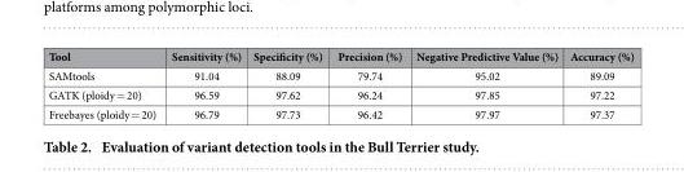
<table><thead><tr><td>Tool</td><td>Sensitivity (%)</td><td>Specificity (%)</td><td>Precision (%)</td><td>Negative Predictive Value (%)</td><td>Accuracy (%)</td></tr></thead><tbody><tr><td>SAMtools</td><td>91.04</td><td>88.09</td><td>79.74</td><td>95.02</td><td>89.09</td></tr><tr><td>GATK (ploidy = 20)</td><td>96.59</td><td>97.62</td><td>96.24</td><td>97.85</td><td>97.22</td></tr><tr><td>Freebayes (ploidy = 20)</td><td>96.79</td><td>97.73</td><td>96.42</td><td>97.97</td><td>97.37</td></tr></tbody></table>